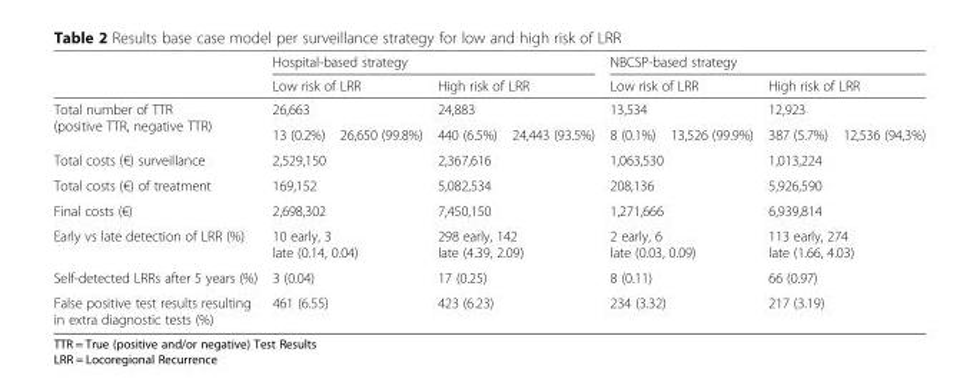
<table><thead><tr><td rowspan="4">Total number of TTR (positive TTR, negative TTR)</td><td colspan="4">Hospital-based strategy</td><td colspan="4">NBCSP-based strategy</td></tr><tr><td rowspan="2" colspan="2">Low risk of LRR 26,663</td><td rowspan="2" colspan="2">High risk of LRR 24,883</td><td rowspan="2" colspan="2">Low risk of LRR 13,534</td><td rowspan="2" colspan="2">High risk of LRR 12,923</td></tr><tr></tr><tr><td>13 (0.2%)</td><td>26,650 (99.8%)</td><td>440 (6.5%)</td><td>24,443 (93.5%)</td><td>8 (0.1%)</td><td>13,526 (99.9%)</td><td>387 (5.7%)</td><td>12,536 (94,3%)</td></tr></thead><tbody><tr><td>Total costs (€) surveillance</td><td colspan="2">2,529,150</td><td colspan="2">2,367,616</td><td colspan="2">1,063,530</td><td colspan="2">1,013,224</td></tr><tr><td>Total costs (€) of treatment</td><td colspan="2">169,152</td><td colspan="2">5,082,534</td><td colspan="2">208,136</td><td colspan="2">5,926,590</td></tr><tr><td>Final costs (€)</td><td colspan="2">2,698,302</td><td colspan="2">7,450,150</td><td colspan="2">1,271,666</td><td colspan="2">6,939,814</td></tr><tr><td>Early vs late detection of LRR (%)</td><td colspan="2">10 early, 3 late (0.14, 0.04)</td><td colspan="2">298 early, 142 late (4.39, 2.09)</td><td colspan="2">2 early, 6 late (0.03, 0.09)</td><td colspan="2">113 early, 274 late (1.66, 4.03)</td></tr><tr><td>Self-detected LRRs after 5 years (%)</td><td colspan="2">3 (0.04)</td><td colspan="2">17 (0.25)</td><td colspan="2">8 (0.11)</td><td colspan="2">66 (0.97)</td></tr><tr><td>False positive test results resulting in extra diagnostic tests (%)</td><td colspan="2">461 (6.55)</td><td colspan="2">423 (6.23)</td><td colspan="2">234 (3.32)</td><td colspan="2">217 (3.19)</td></tr></tbody></table>